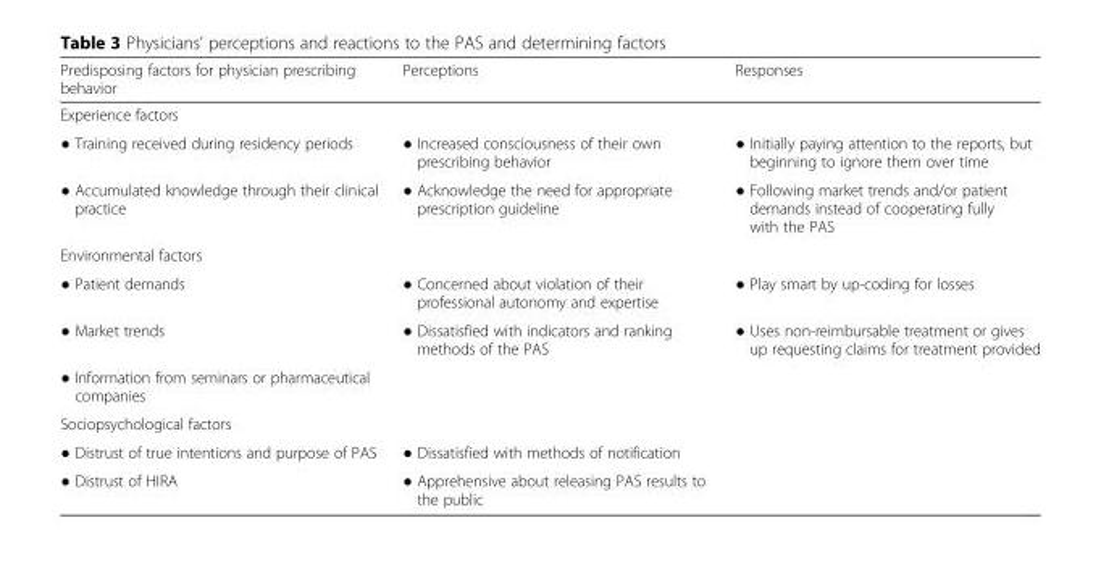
<table><thead><tr><td>Predisposing factors for physician prescribing behavior</td><td>Perceptions</td><td>Responses</td></tr></thead><tbody><tr><td colspan="3">Experience factors</td></tr><tr><td>● Training received during residency periods</td><td>● Increased consciousness of their own prescribing behavior</td><td>● Initially paying attention to the reports, but beginning to ignore them over time</td></tr><tr><td>● Accumulated knowledge through their clinical practice</td><td>● Acknowledge the need for appropriate prescription guideline</td><td>● Following market trends and/or patient demands instead of cooperating fully with the PAS</td></tr><tr><td colspan="3">Environmental factors</td></tr><tr><td>● Patient demands</td><td>● Concerned about violation of their professional autonomy and expertise</td><td>● Play smart by up-coding for losses</td></tr><tr><td>● Market trends</td><td>● Dissatisfied with indicators and ranking methods of the PAS</td><td>● Uses non-reimbursable treatment or gives up requesting claims for treatment provided</td></tr><tr><td colspan="3">● Information from seminars or pharmaceutical companies</td></tr><tr><td colspan="3">Sociopsychological factors</td></tr><tr><td>● Distrust of true intentions and purpose of PAS</td><td>● Dissatisfied with methods of notification</td><td></td></tr><tr><td>● Distrust of HIRA</td><td>● Apprehensive about releasing PAS results to the public</td><td></td></tr></tbody></table>